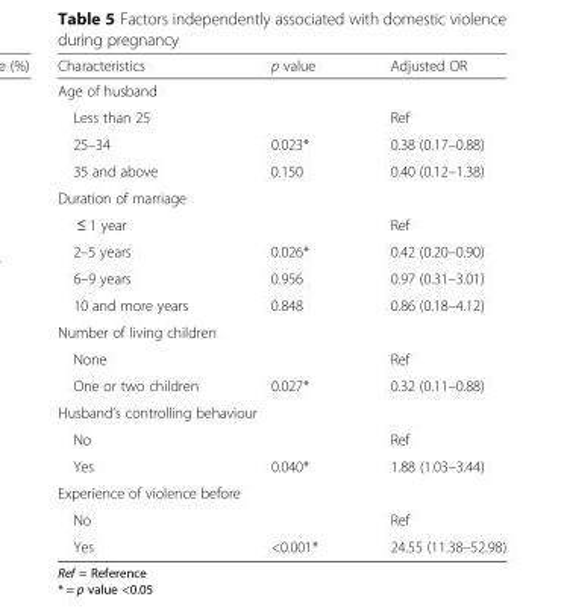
<table><thead><tr><td>Characteristics</td><td>p value</td><td>Adjusted OR</td></tr></thead><tbody><tr><td colspan="3">Age of husband</td></tr><tr><td>Less than 25</td><td></td><td>Ref</td></tr><tr><td>25–34</td><td>0.023*</td><td>0.38 (0.17–0.88)</td></tr><tr><td>35 and above</td><td>0.150</td><td>0.40 (0.12–1.38)</td></tr><tr><td colspan="3">Duration of marriage</td></tr><tr><td>≤ 1 year</td><td></td><td>Ref</td></tr><tr><td>2–5 years</td><td>0.026*</td><td>0.42 (0.20–0.90)</td></tr><tr><td>6–9 years</td><td>0.956</td><td>0.97 (0.31–3.01)</td></tr><tr><td>10 and more years</td><td>0.848</td><td>0.86 (0.18–4.12)</td></tr><tr><td colspan="3">Number of living children</td></tr><tr><td>None</td><td></td><td>Ref</td></tr><tr><td>One or two children</td><td>0.027*</td><td>0.32 (0.11–0.88)</td></tr><tr><td colspan="3">Husband’s controlling behaviour</td></tr><tr><td>No</td><td></td><td>Ref</td></tr><tr><td>Yes</td><td>0.040*</td><td>1.88 (1.03–3.44)</td></tr><tr><td colspan="3">Experience of violence before</td></tr><tr><td>No</td><td></td><td>Ref</td></tr><tr><td>Yes</td><td>&lt;0.001*</td><td>24.55 (11.38–52.98)</td></tr></tbody></table>